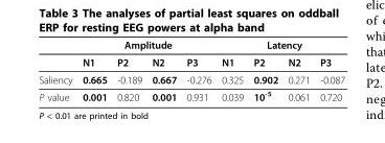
<table><thead><tr><td rowspan="2"></td><td colspan="4">Amplitude</td><td colspan="4">Latency</td></tr><tr><td>N1</td><td>P2</td><td>N2</td><td>P3</td><td>N1</td><td>P2</td><td>N2</td><td>P3</td></tr></thead><tbody><tr><td>Saliency</td><td>0.665</td><td>-0.189</td><td>0.667</td><td>-0.276</td><td>0.325</td><td>0.902</td><td>0.271</td><td>-0.087</td></tr><tr><td>P value</td><td>0.001</td><td>0.820</td><td>0.001</td><td>0.931</td><td>0.039</td><td>10<sup>-5</sup></td><td>0.061</td><td>0.720</td></tr></tbody></table>